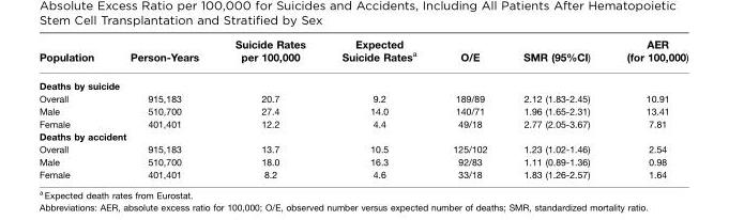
<table><thead><tr><td>Population</td><td>Person-Years</td><td>Suicide Rates per 100,000</td><td>Expected Suicide Rates<sup>a</sup></td><td>O/E</td><td>SMR (95%CI)</td><td>AER (for 100,000)</td></tr></thead><tbody><tr><td colspan="7">Deaths by suicide</td></tr><tr><td>Overall</td><td>915,183</td><td>20.7</td><td>9.2</td><td>189/89</td><td>2.12 (1.83-2.45)</td><td>10.91</td></tr><tr><td>Male</td><td>510,700</td><td>27.4</td><td>14.0</td><td>140/71</td><td>1.96 (1.65-2.31)</td><td>13.41</td></tr><tr><td>Female</td><td>401,401</td><td>12.2</td><td>4.4</td><td>49/18</td><td>2.77 (2.05-3.67)</td><td>7.81</td></tr><tr><td colspan="7">Deaths by accident</td></tr><tr><td>Overall</td><td>915,183</td><td>13.7</td><td>10.5</td><td>125/102</td><td>1.23 (1.02-1.46)</td><td>2.54</td></tr><tr><td>Male</td><td>510,700</td><td>18.0</td><td>16.3</td><td>92/83</td><td>1.11 (0.89-1.36)</td><td>0.98</td></tr><tr><td>Female</td><td>401,401</td><td>8.2</td><td>4.6</td><td>33/18</td><td>1.83 (1.26-2.57)</td><td>1.64</td></tr></tbody></table>